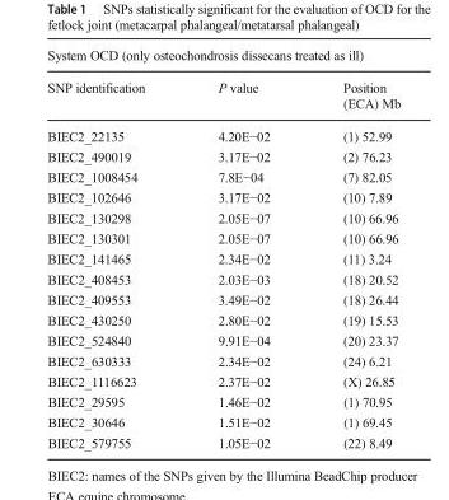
<table><thead><tr><td colspan="3">System OCD (only osteochondrosis dissecans treated as ill)</td></tr><tr><td>SNP identification</td><td>P value</td><td>Position (ECA) Mb</td></tr></thead><tbody><tr><td>BIEC2_22135</td><td>4.20E−02</td><td>(1) 52.99</td></tr><tr><td>BIEC2_490019</td><td>3.17E−02</td><td>(2) 76.23</td></tr><tr><td>BIEC2_1008454</td><td>7.8E−04</td><td>(7) 82.05</td></tr><tr><td>BIEC2_102646</td><td>3.17E−02</td><td>(10) 7.89</td></tr><tr><td>BIEC2_130298</td><td>2.05E−07</td><td>(10) 66.96</td></tr><tr><td>BIEC2_130301</td><td>2.05E−07</td><td>(10) 66.96</td></tr><tr><td>BIEC2_141465</td><td>2.34E−02</td><td>(11) 3.24</td></tr><tr><td>BIEC2_408453</td><td>2.03E−03</td><td>(18) 20.52</td></tr><tr><td>BIEC2_409553</td><td>3.49E−02</td><td>(18) 26.44</td></tr><tr><td>BIEC2_430250</td><td>2.80E−02</td><td>(19) 15.53</td></tr><tr><td>BIEC2_524840</td><td>9.91E−04</td><td>(20) 23.37</td></tr><tr><td>BIEC2_630333</td><td>2.34E−02</td><td>(24) 6.21</td></tr><tr><td>BIEC2_1116623</td><td>2.37E−02</td><td>(X) 26.85</td></tr><tr><td>BIEC2_29595</td><td>1.46E−02</td><td>(1) 70.95</td></tr><tr><td>BIEC2_30646</td><td>1.51E−02</td><td>(1) 69.45</td></tr><tr><td>BIEC2_579755</td><td>1.05E−02</td><td>(22) 8.49</td></tr></tbody></table>